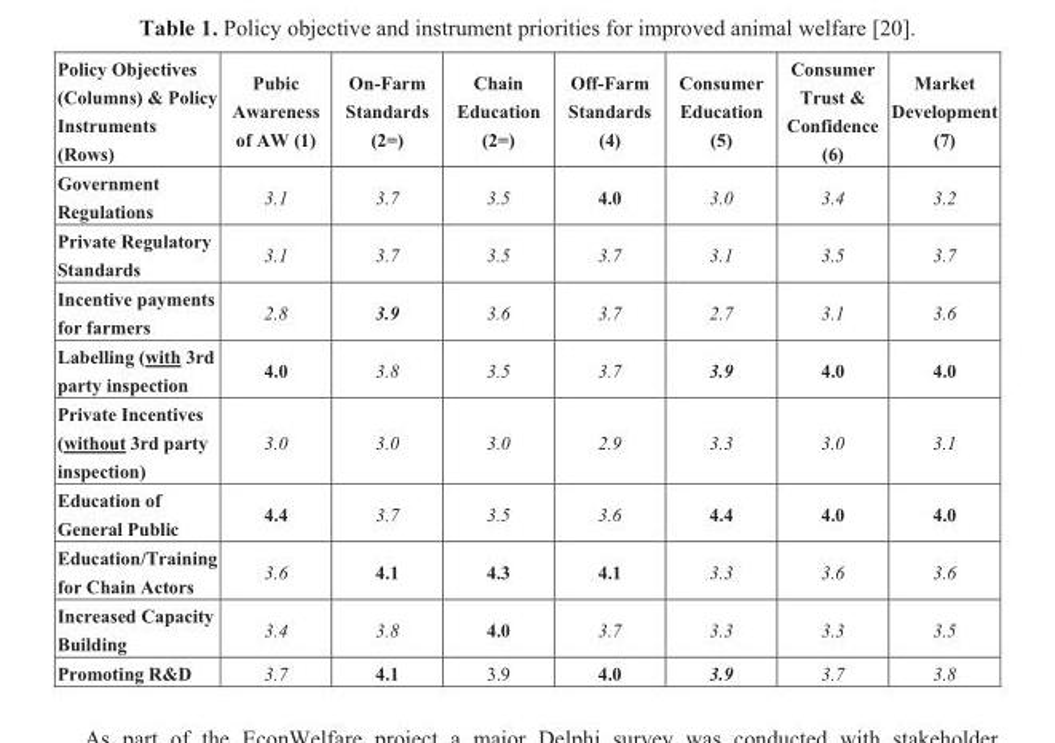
<table><thead><tr><td>Policy Objectives (Columns) &amp; Policy Instruments (Rows)</td><td>Pubic Awareness of AW (1)</td><td>On-Farm Standards (2=)</td><td>Chain Education (2=)</td><td>Off-Farm Standards (4)</td><td>Consumer Education (5)</td><td>Consumer Trust &amp; Confidence (6)</td><td>Market Development (7)</td></tr></thead><tbody><tr><td>Government Regulations</td><td>3.1</td><td>3.7</td><td>3.5</td><td>4.0</td><td>3.0</td><td>3.4</td><td>3.2</td></tr><tr><td>Private Regulatory Standards</td><td>3.1</td><td>3.7</td><td>3.5</td><td>3.7</td><td>3.1</td><td>3.5</td><td>3.7</td></tr><tr><td>Incentive payments for farmers</td><td>2.8</td><td>3.9</td><td>3.6</td><td>3.7</td><td>2.7</td><td>3.1</td><td>3.6</td></tr><tr><td>Labelling (with 3rd party inspection</td><td>4.0</td><td>3.8</td><td>3.5</td><td>3.7</td><td>3.9</td><td>4.0</td><td>4.0</td></tr><tr><td>Private Incentives (without 3rd party inspection)</td><td>3.0</td><td>3.0</td><td>3.0</td><td>2.9</td><td>3.3</td><td>3.0</td><td>3.1</td></tr><tr><td>Education of General Public</td><td>4.4</td><td>3.7</td><td>3.5</td><td>3.6</td><td>4.4</td><td>4.0</td><td>4.0</td></tr><tr><td>Education/Training for Chain Actors</td><td>3.6</td><td>4.1</td><td>4.3</td><td>4.1</td><td>3.3</td><td>3.6</td><td>3.6</td></tr><tr><td>Increased Capacity Building</td><td>3.4</td><td>3.8</td><td>4.0</td><td>3.7</td><td>3.3</td><td>3.3</td><td>3.5</td></tr><tr><td>Promoting R&amp;D</td><td>3.7</td><td>4.1</td><td>3.9</td><td>4.0</td><td>3.9</td><td>3.7</td><td>3.8</td></tr></tbody></table>